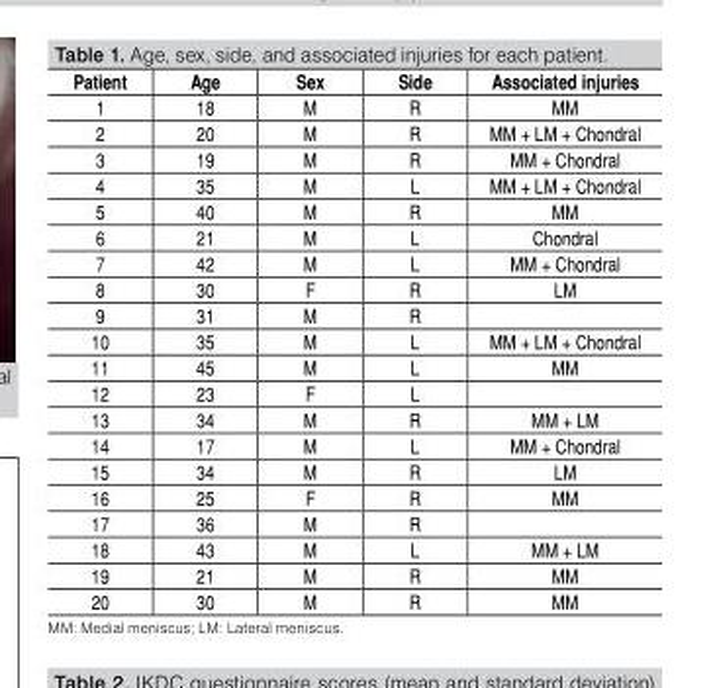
<table><thead><tr><td>Patient</td><td>Age</td><td>Sex</td><td>Side</td><td>Associated injuries</td></tr></thead><tbody><tr><td>1</td><td>18</td><td>M</td><td>R</td><td>MM</td></tr><tr><td>2</td><td>20</td><td>M</td><td>R</td><td>MM + LM + Chondral</td></tr><tr><td>3</td><td>19</td><td>M</td><td>R</td><td>MM + Chondral</td></tr><tr><td>4</td><td>35</td><td>M</td><td>L</td><td>MM + LM + Chondral</td></tr><tr><td>5</td><td>40</td><td>M</td><td>R</td><td>MM</td></tr><tr><td>6</td><td>21</td><td>M</td><td>L</td><td>Chondral</td></tr><tr><td>7</td><td>42</td><td>M</td><td>L</td><td>MM + Chondral</td></tr><tr><td>8</td><td>30</td><td>F</td><td>R</td><td>LM</td></tr><tr><td>9</td><td>31</td><td>M</td><td>R</td><td></td></tr><tr><td>10</td><td>35</td><td>M</td><td>L</td><td>MM + LM + Chondral</td></tr><tr><td>11</td><td>45</td><td>M</td><td>L</td><td>MM</td></tr><tr><td>12</td><td>23</td><td>F</td><td>L</td><td></td></tr><tr><td>13</td><td>34</td><td>M</td><td>R</td><td>MM + LM</td></tr><tr><td>14</td><td>17</td><td>M</td><td>L</td><td>MM + Chondral</td></tr><tr><td>15</td><td>34</td><td>M</td><td>R</td><td>LM</td></tr><tr><td>16</td><td>25</td><td>F</td><td>R</td><td>MM</td></tr><tr><td>17</td><td>36</td><td>M</td><td>R</td><td></td></tr><tr><td>18</td><td>43</td><td>M</td><td>L</td><td>MM + LM</td></tr><tr><td>19</td><td>21</td><td>M</td><td>R</td><td>MM</td></tr><tr><td>20</td><td>30</td><td>M</td><td>R</td><td>MM</td></tr></tbody></table>